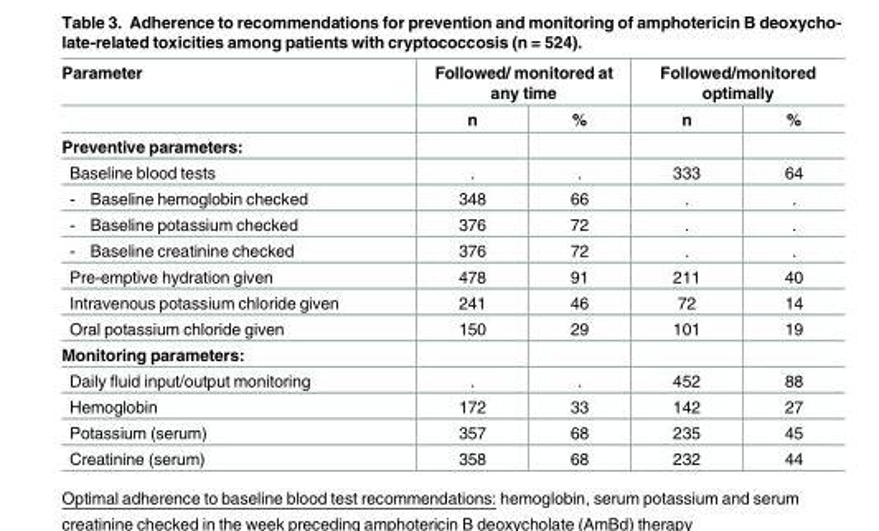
<table><thead><tr><td rowspan="2">Parameter</td><td colspan="2">Followed/ monitored at any time</td><td colspan="2">Followed/monitored optimally</td></tr><tr><td>n</td><td>%</td><td>n</td><td>%</td></tr></thead><tbody><tr><td colspan="5">Preventive parameters:</td></tr><tr><td>Baseline blood tests</td><td>.</td><td>.</td><td>333</td><td>64</td></tr><tr><td>- Baseline hemoglobin checked</td><td>348</td><td>66</td><td>.</td><td>.</td></tr><tr><td>- Baseline potassium checked</td><td>376</td><td>72</td><td>.</td><td>.</td></tr><tr><td>- Baseline creatinine checked</td><td>376</td><td>72</td><td>.</td><td>.</td></tr><tr><td>Pre-emptive hydration given</td><td>478</td><td>91</td><td>211</td><td>40</td></tr><tr><td>Intravenous potassium chloride given</td><td>241</td><td>46</td><td>72</td><td>14</td></tr><tr><td>Oral potassium chloride given</td><td>150</td><td>29</td><td>101</td><td>19</td></tr><tr><td colspan="5">Monitoring parameters:</td></tr><tr><td>Daily fluid input/output monitoring</td><td>.</td><td>.</td><td>452</td><td>88</td></tr><tr><td>Hemoglobin</td><td>172</td><td>33</td><td>142</td><td>27</td></tr><tr><td>Potassium (serum)</td><td>357</td><td>68</td><td>235</td><td>45</td></tr><tr><td>Creatinine (serum)</td><td>358</td><td>68</td><td>232</td><td>44</td></tr></tbody></table>